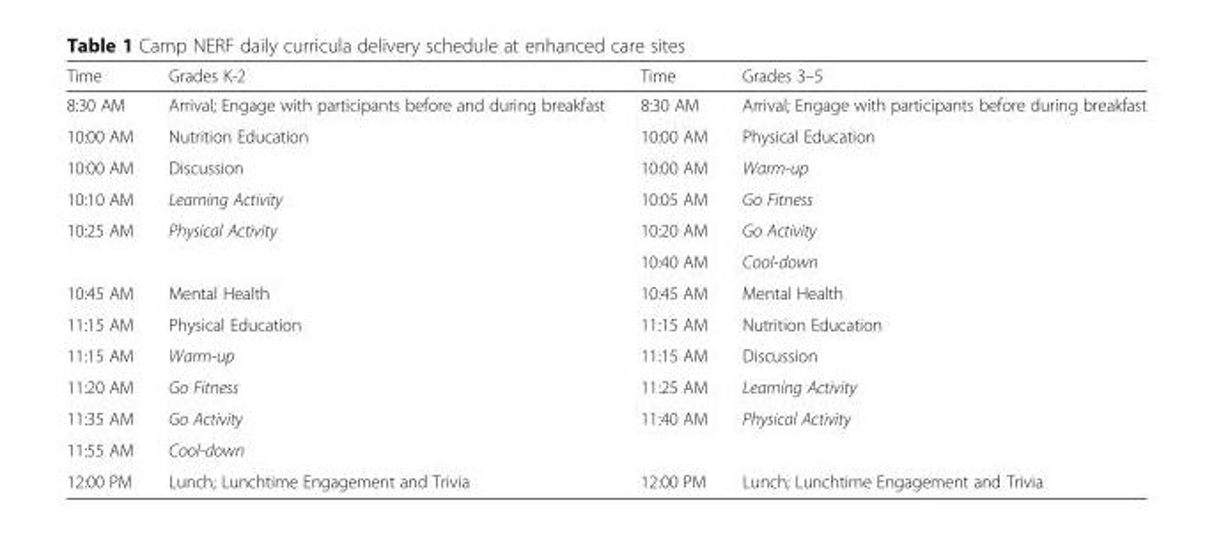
<table><thead><tr><td>Time</td><td>Grades K-2</td><td>Time</td><td>Grades 3–5</td></tr></thead><tbody><tr><td>8:30 AM</td><td>Arrival; Engage with participants before and during breakfast</td><td>8:30 AM</td><td>Arrival; Engage with participants before during breakfast</td></tr><tr><td>10:00 AM</td><td>Nutrition Education</td><td>10:00 AM</td><td>Physical Education</td></tr><tr><td>10:00 AM</td><td>Discussion</td><td>10:00 AM</td><td>Warm-up</td></tr><tr><td>10:10 AM</td><td>Learning Activity</td><td>10:05 AM</td><td>Go Fitness</td></tr><tr><td rowspan="2">10:25 AM</td><td>Physical Activity</td><td>10:20 AM</td><td>Go Activity</td></tr><tr><td></td><td>10:40 AM</td><td>Cool-down</td></tr><tr><td>10:45 AM</td><td>Mental Health</td><td>10:45 AM</td><td>Mental Health</td></tr><tr><td>11:15 AM</td><td>Physical Education</td><td>11:15 AM</td><td>Nutrition Education</td></tr><tr><td>11:15 AM</td><td>Warm-up</td><td>11:15 AM</td><td>Discussion</td></tr><tr><td>11:20 AM</td><td>Go Fitness</td><td>11:25 AM</td><td>Learning Activity</td></tr><tr><td>11:35 AM</td><td>Go Activity</td><td>11:40 AM</td><td>Physical Activity</td></tr><tr><td>11:55 AM</td><td>Cool-down</td><td></td><td></td></tr><tr><td>12:00 PM</td><td>Lunch; Lunchtime Engagement and Trivia</td><td>12:00 PM</td><td>Lunch; Lunchtime Engagement and Trivia</td></tr></tbody></table>